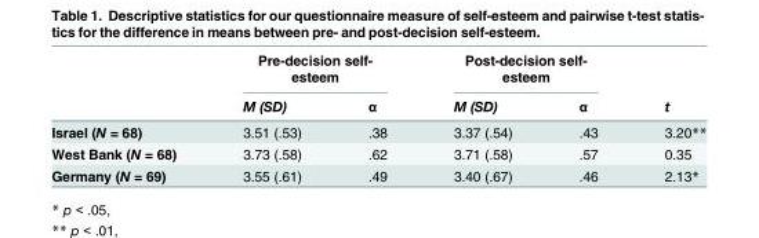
<table><thead><tr><td rowspan="2"></td><td colspan="2">Pre-decision self- esteem</td><td colspan="2">Post-decision self- esteem</td><td rowspan="2">t</td></tr><tr><td>M (SD)</td><td>α</td><td>M (SD)</td><td>α</td></tr></thead><tbody><tr><td>Israel (N = 68)</td><td>3.51 (.53)</td><td>.38</td><td>3.37 (.54)</td><td>.43</td><td>3.20**</td></tr><tr><td>West Bank (N = 68)</td><td>3.73 (.58)</td><td>.62</td><td>3.71 (.58)</td><td>.57</td><td>0.35</td></tr><tr><td>Germany (N = 69)</td><td>3.55 (.61)</td><td>.49</td><td>3.40 (.67)</td><td>.46</td><td>2.13*</td></tr></tbody></table>